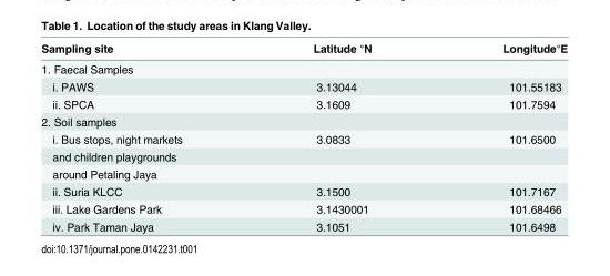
<table><thead><tr><td>Sampling site</td><td>Latitude °N</td><td>Longitude°E</td></tr></thead><tbody><tr><td colspan="3">1. Faecal Samples</td></tr><tr><td>i. PAWS</td><td>3.13044</td><td>101.55183</td></tr><tr><td>ii. SPCA</td><td>3.1609</td><td>101.7594</td></tr><tr><td colspan="3">2. Soil samples</td></tr><tr><td>i. Bus stops, night markets</td><td>3.0833</td><td>101.6500</td></tr><tr><td colspan="3">and children playgrounds</td></tr><tr><td colspan="3">around Petaling Jaya</td></tr><tr><td>ii. Suria KLCC</td><td>3.1500</td><td>101.7167</td></tr><tr><td>iii. Lake Gardens Park</td><td>3.1430001</td><td>101.68466</td></tr><tr><td>iv. Park Taman Jaya</td><td>3.1051</td><td>101.6498</td></tr></tbody></table>